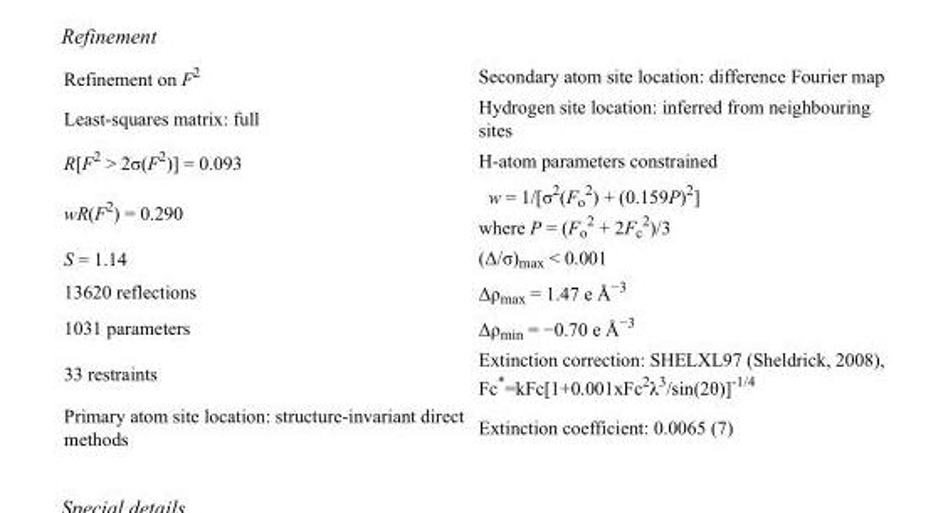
<table><tbody><tr><td>Refinement on F<sup>2</sup></td><td>Secondary atom site location: difference Fourier map</td></tr><tr><td>Least-squares matrix: full</td><td>Hydrogen site location: inferred from neighbouring sites</td></tr><tr><td>R[F<sup>2</sup> &gt; 2σ(F<sup>2</sup>)] = 0.093</td><td>H-atom parameters constrained</td></tr><tr><td>wR(F<sup>2</sup>) = 0.290</td><td>w = 1/[σ<sup>2</sup>(F<sub>o</sub> <sup>2</sup>) + (0.159P)<sup>2</sup>] where P = (F<sub>o</sub> <sup>2</sup> + 2F<sub>c</sub> <sup>2</sup>)/3</td></tr><tr><td>S = 1.14</td><td>(Δ/σ)<sub>max</sub> &lt; 0.001</td></tr><tr><td>13620 reflections</td><td>Δρ<sub>max</sub> = 1.47 e Å<sup>−3</sup></td></tr><tr><td>1031 parameters</td><td>Δρ<sub>min</sub> = −0.70 e Å<sup>−3</sup></td></tr><tr><td>33 restraints</td><td>Extinction correction: SHELXL97 (Sheldrick, 2008), Fc*=kFc[1+0.001xFc<sup>2</sup>λ<sup>3</sup>/sin(2θ)]<sup>-1/4</sup></td></tr><tr><td>Primary atom site location: structure-invariant direct methods</td><td>Extinction coefficient: 0.0065 (7)</td></tr></tbody></table>